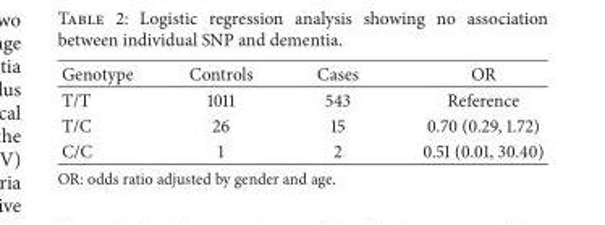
<table><thead><tr><td>Genotype</td><td>Controls</td><td>Cases</td><td>OR</td></tr></thead><tbody><tr><td>T/T</td><td>1011</td><td>543</td><td>Reference</td></tr><tr><td>T/C</td><td>26</td><td>15</td><td>0.70 (0.29, 1.72)</td></tr><tr><td>C/C</td><td>1</td><td>2</td><td>0.51 (0.01, 30.40)</td></tr></tbody></table>